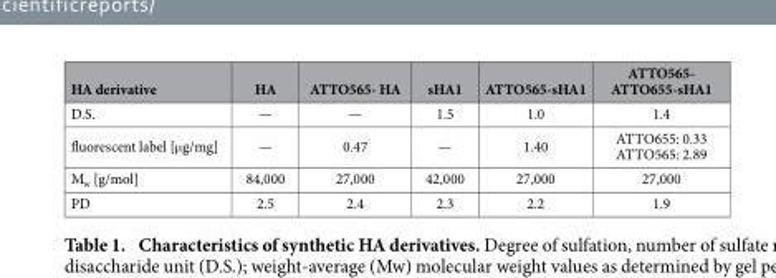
<table><thead><tr><td>HA derivative</td><td>HA</td><td>ATTO565- HA</td><td>sHA1</td><td>ATTO565-sHA1</td><td>ATTO565- ATTO655-sHA1</td></tr></thead><tbody><tr><td>D.S.</td><td>—</td><td>—</td><td>1.5</td><td>1.0</td><td>1.4</td></tr><tr><td>fluorescent label [μ g/mg]</td><td>—</td><td>0.47</td><td>—</td><td>1.40</td><td>ATTO655: 0.33 ATTO565: 2.89</td></tr><tr><td>M<sub>w</sub> [g/mol]</td><td>84,000</td><td>27,000</td><td>42,000</td><td>27,000</td><td>27,000</td></tr><tr><td>PD</td><td>2.5</td><td>2.4</td><td>2.3</td><td>2.2</td><td>1.9</td></tr></tbody></table>